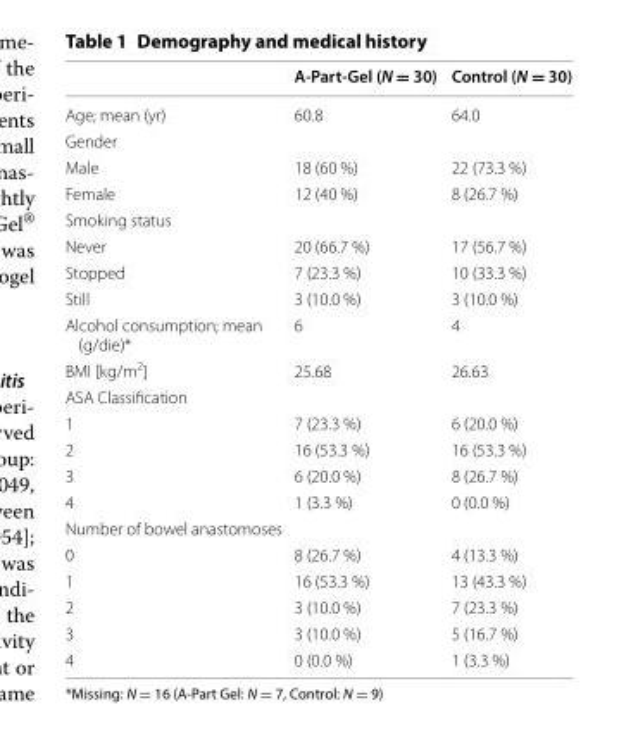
<table><thead><tr><td></td><td>A-Part-Gel (N = 30)</td><td>Control (N = 30)</td></tr></thead><tbody><tr><td>Age; mean (yr)</td><td>60.8</td><td>64.0</td></tr><tr><td colspan="3">Gender</td></tr><tr><td>Male</td><td>18 (60 %)</td><td>22 (73.3 %)</td></tr><tr><td>Female</td><td>12 (40 %)</td><td>8 (26.7 %)</td></tr><tr><td colspan="3">Smoking status</td></tr><tr><td>Never</td><td>20 (66.7 %)</td><td>17 (56.7 %)</td></tr><tr><td>Stopped</td><td>7 (23.3 %)</td><td>10 (33.3 %)</td></tr><tr><td>Still</td><td>3 (10.0 %)</td><td>3 (10.0 %)</td></tr><tr><td>Alcohol consumption; mean (g/die)*</td><td>6</td><td>4</td></tr><tr><td>BMI [kg/m<sup>2</sup>]</td><td>25.68</td><td>26.63</td></tr><tr><td colspan="3">ASA Classification</td></tr><tr><td>1</td><td>7 (23.3 %)</td><td>6 (20.0 %)</td></tr><tr><td>2</td><td>16 (53.3 %)</td><td>16 (53.3 %)</td></tr><tr><td>3</td><td>6 (20.0 %)</td><td>8 (26.7 %)</td></tr><tr><td>4</td><td>1 (3.3 %)</td><td>0 (0.0 %)</td></tr><tr><td colspan="3">Number of bowel anastomoses</td></tr><tr><td>0</td><td>8 (26.7 %)</td><td>4 (13.3 %)</td></tr><tr><td>1</td><td>16 (53.3 %)</td><td>13 (43.3 %)</td></tr><tr><td>2</td><td>3 (10.0 %)</td><td>7 (23.3 %)</td></tr><tr><td>3</td><td>3 (10.0 %)</td><td>5 (16.7 %)</td></tr><tr><td>4</td><td>0 (0.0 %)</td><td>1 (3.3 %)</td></tr></tbody></table>